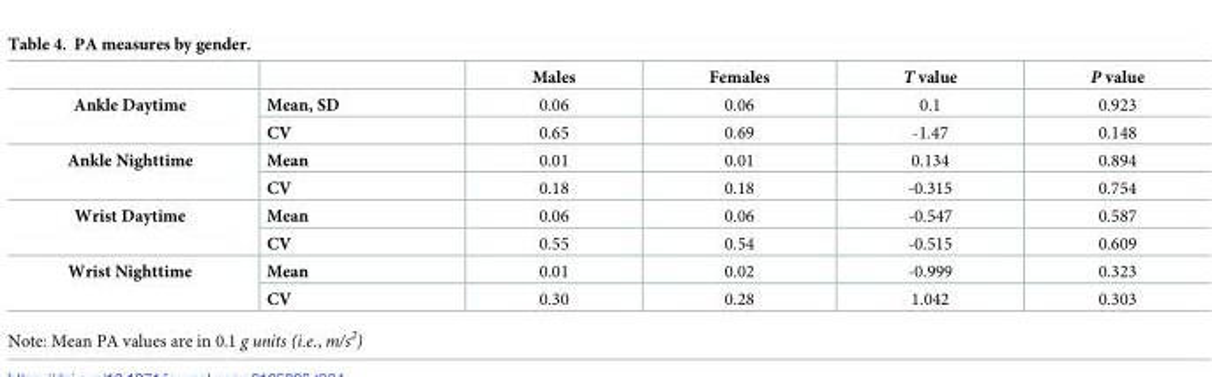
<table><thead><tr><td></td><td></td><td>Males</td><td>Females</td><td>T value</td><td>P value</td></tr></thead><tbody><tr><td rowspan="2">Ankle Daytime</td><td>Mean, SD</td><td>0.06</td><td>0.06</td><td>0.1</td><td>0.923</td></tr><tr><td>CV</td><td>0.65</td><td>0.69</td><td>-1.47</td><td>0.148</td></tr><tr><td rowspan="2">Ankle Nighttime</td><td>Mean</td><td>0.01</td><td>0.01</td><td>0.134</td><td>0.894</td></tr><tr><td>CV</td><td>0.18</td><td>0.18</td><td>-0.315</td><td>0.754</td></tr><tr><td rowspan="2">Wrist Daytime</td><td>Mean</td><td>0.06</td><td>0.06</td><td>-0.547</td><td>0.587</td></tr><tr><td>CV</td><td>0.55</td><td>0.54</td><td>-0.515</td><td>0.609</td></tr><tr><td rowspan="2">Wrist Nighttime</td><td>Mean</td><td>0.01</td><td>0.02</td><td>-0.999</td><td>0.323</td></tr><tr><td>CV</td><td>0.30</td><td>0.28</td><td>1.042</td><td>0.303</td></tr></tbody></table>